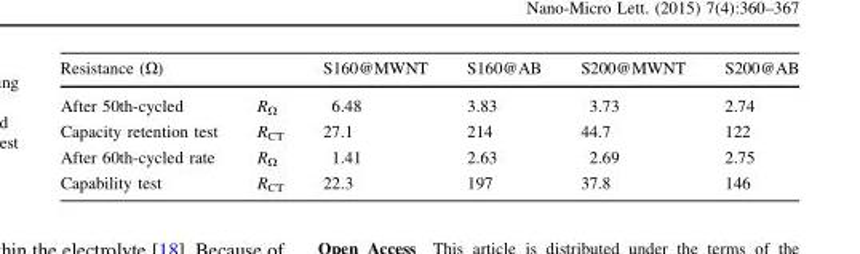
<table><thead><tr><td colspan="2">Resistance (Ω)</td><td rowspan="2">S160@MWNT 6.48</td><td rowspan="2">S160@AB 3.83</td><td rowspan="2">S200@MWNT 3.73</td><td rowspan="2">S200@AB 2.74</td></tr><tr><td>After 50th-cycled</td><td>R<sub>Ω</sub></td></tr></thead><tbody><tr><td>Capacity retention test</td><td>R<sub>CT</sub></td><td>27.1</td><td>214</td><td>44.7</td><td>122</td></tr><tr><td>After 60th-cycled rate</td><td>R<sub>Ω</sub></td><td>1.41</td><td>2.63</td><td>2.69</td><td>2.75</td></tr><tr><td>Capability test</td><td>R<sub>CT</sub></td><td>22.3</td><td>197</td><td>37.8</td><td>146</td></tr></tbody></table>